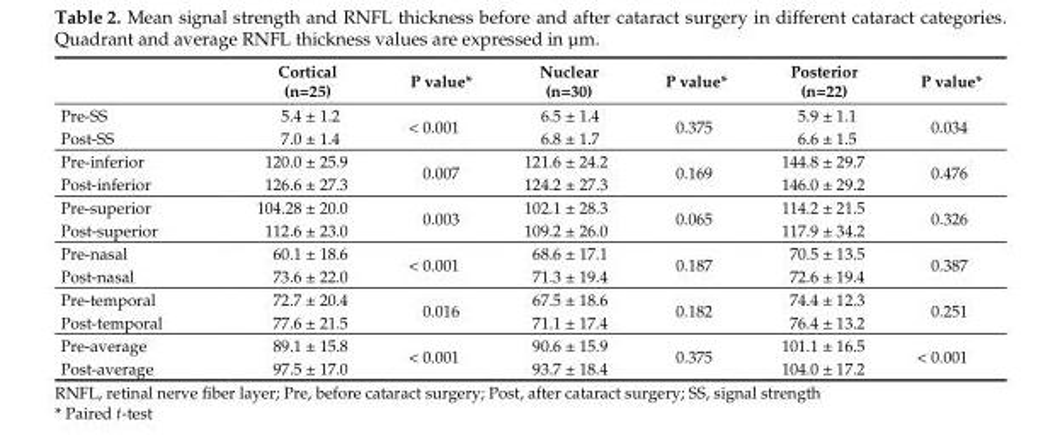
<table><thead><tr><td></td><td>Cortical (n=25)</td><td>P value*</td><td>Nuclear (n=30)</td><td>P value*</td><td>Posterior (n=22)</td><td>P value*</td></tr></thead><tbody><tr><td>Pre-SS</td><td>5.4 ± 1.2</td><td rowspan="2">&lt; 0.001</td><td>6.5 ± 1.4</td><td rowspan="2">0.375</td><td>5.9 ± 1.1</td><td rowspan="2">0.034</td></tr><tr><td>Post-SS</td><td>7.0 ± 1.4</td><td>6.8 ± 1.7</td><td>6.6 ± 1.5</td></tr><tr><td>Pre-inferior</td><td>120.0 ± 25.9</td><td rowspan="2">0.007</td><td>121.6 ± 24.2</td><td rowspan="2">0.169</td><td>144.8 ± 29.7</td><td rowspan="2">0.476</td></tr><tr><td>Post-inferior</td><td>126.6 ± 27.3</td><td>124.2 ± 27.3</td><td>146.0 ± 29.2</td></tr><tr><td>Pre-superior</td><td>104.28 ± 20.0</td><td rowspan="2">0.003</td><td>102.1 ± 28.3</td><td rowspan="2">0.065</td><td>114.2 ± 21.5</td><td rowspan="2">0.326</td></tr><tr><td>Post-superior</td><td>112.6 ± 23.0</td><td>109.2 ± 26.0</td><td>117.9 ± 34.2</td></tr><tr><td>Pre-nasal</td><td>60.1 ± 18.6</td><td rowspan="2">&lt; 0.001</td><td>68.6 ± 17.1</td><td rowspan="2">0.187</td><td>70.5 ± 13.5</td><td rowspan="2">0.387</td></tr><tr><td>Post-nasal</td><td>73.6 ± 22.0</td><td>71.3 ± 19.4</td><td>72.6 ± 19.4</td></tr><tr><td>Pre-temporal</td><td>72.7 ± 20.4</td><td rowspan="2">0.016</td><td>67.5 ± 18.6</td><td rowspan="2">0.182</td><td>74.4 ± 12.3</td><td rowspan="2">0.251</td></tr><tr><td>Post-temporal</td><td>77.6 ± 21.5</td><td>71.1 ± 17.4</td><td>76.4 ± 13.2</td></tr><tr><td>Pre-average</td><td>89.1 ± 15.8</td><td rowspan="2">&lt; 0.001</td><td>90.6 ± 15.9</td><td rowspan="2">0.375</td><td>101.1 ± 16.5</td><td rowspan="2">&lt; 0.001</td></tr><tr><td>Post-average</td><td>97.5 ± 17.0</td><td>93.7 ± 18.4</td><td>104.0 ± 17.2</td></tr></tbody></table>